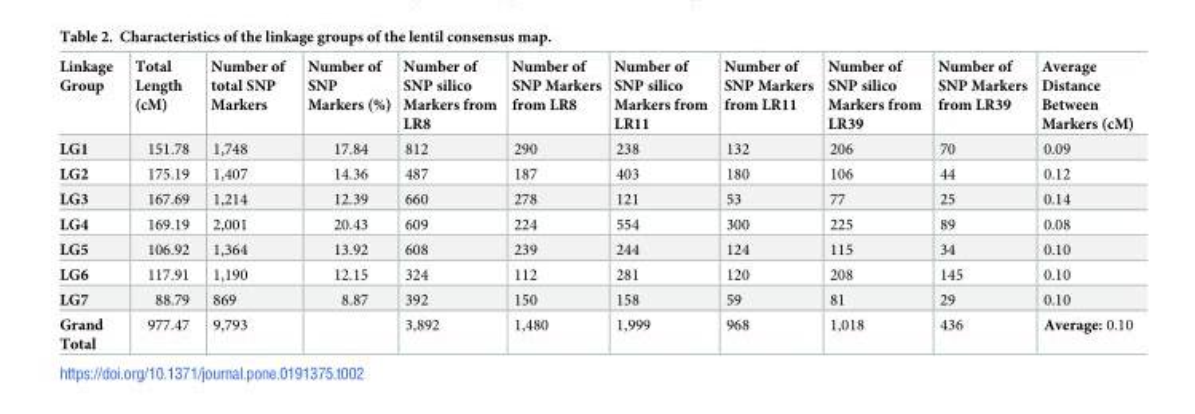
<table><thead><tr><td>Linkage Group</td><td>Total Length (cM)</td><td>Number of total SNP Markers</td><td>Number of SNP Markers (%)</td><td>Number of SNP silico Markers from LR8</td><td>Number of SNP Markers from LR8</td><td>Number of SNP silico Markers from LR11</td><td>Number of SNP Markers from LR11</td><td>Number of SNP silico Markers from LR39</td><td>Number of SNP Markers from LR39</td><td>Average Distance Between Markers (cM)</td></tr></thead><tbody><tr><td>LG1</td><td>151.78</td><td>1,748</td><td>17.84</td><td>812</td><td>290</td><td>238</td><td>132</td><td>206</td><td>70</td><td>0.09</td></tr><tr><td>LG2</td><td>175.19</td><td>1,407</td><td>14.36</td><td>487</td><td>187</td><td>403</td><td>180</td><td>106</td><td>44</td><td>0.12</td></tr><tr><td>LG3</td><td>167.69</td><td>1,214</td><td>12.39</td><td>660</td><td>278</td><td>121</td><td>53</td><td>77</td><td>25</td><td>0.14</td></tr><tr><td>LG4</td><td>169.19</td><td>2,001</td><td>20.43</td><td>609</td><td>224</td><td>554</td><td>300</td><td>225</td><td>89</td><td>0.08</td></tr><tr><td>LG5</td><td>106.92</td><td>1,364</td><td>13.92</td><td>608</td><td>239</td><td>244</td><td>124</td><td>115</td><td>34</td><td>0.10</td></tr><tr><td>LG6</td><td>117.91</td><td>1,190</td><td>12.15</td><td>324</td><td>112</td><td>281</td><td>120</td><td>208</td><td>145</td><td>0.10</td></tr><tr><td>LG7</td><td>88.79</td><td>869</td><td>8.87</td><td>392</td><td>150</td><td>158</td><td>59</td><td>81</td><td>29</td><td>0.10</td></tr><tr><td>Grand Total</td><td>977.47</td><td>9,793</td><td></td><td>3,892</td><td>1,480</td><td>1,999</td><td>968</td><td>1,018</td><td>436</td><td>Average: 0.10</td></tr></tbody></table>